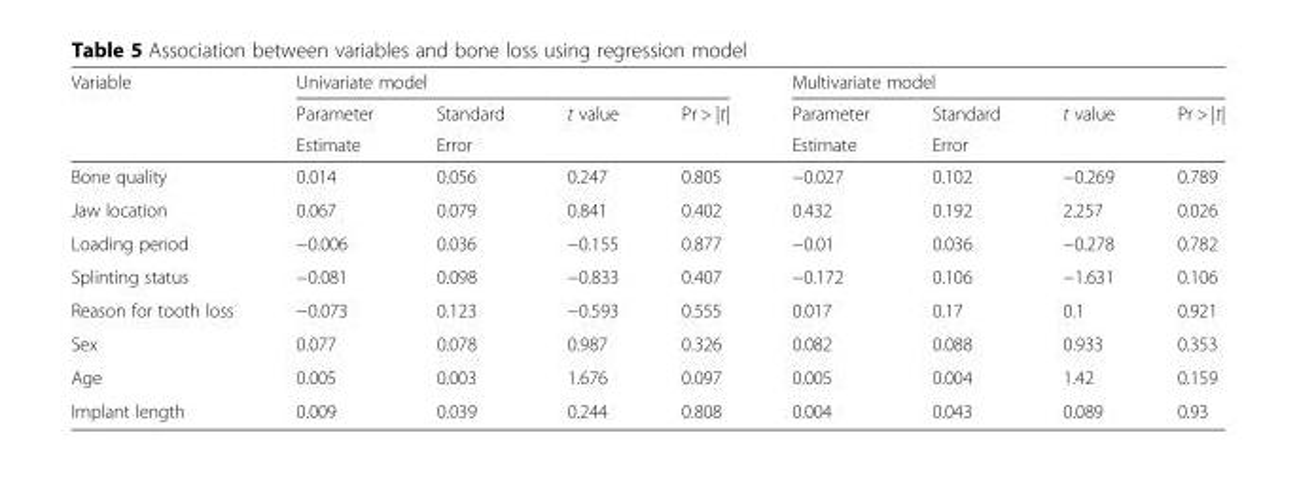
<table><thead><tr><td rowspan="3">Variable</td><td colspan="4">Univariate model</td><td colspan="4">Multivariate model</td></tr><tr><td rowspan="2">Parameter Estimate</td><td rowspan="2">Standard Error</td><td rowspan="2">t value</td><td rowspan="2">Pr &gt; |t|</td><td rowspan="2">Parameter Estimate</td><td rowspan="2">Standard Error</td><td rowspan="2">t value</td><td rowspan="2">Pr &gt; |t|</td></tr><tr></tr></thead><tbody><tr><td>Bone quality</td><td>0.014</td><td>0.056</td><td>0.247</td><td>0.805</td><td>−0.027</td><td>0.102</td><td>−0.269</td><td>0.789</td></tr><tr><td>Jaw location</td><td>0.067</td><td>0.079</td><td>0.841</td><td>0.402</td><td>0.432</td><td>0.192</td><td>2.257</td><td>0.026</td></tr><tr><td>Loading period</td><td>−0.006</td><td>0.036</td><td>−0.155</td><td>0.877</td><td>−0.01</td><td>0.036</td><td>−0.278</td><td>0.782</td></tr><tr><td>Splinting status</td><td>−0.081</td><td>0.098</td><td>−0.833</td><td>0.407</td><td>−0.172</td><td>0.106</td><td>−1.631</td><td>0.106</td></tr><tr><td>Reason for tooth loss</td><td>−0.073</td><td>0.123</td><td>−0.593</td><td>0.555</td><td>0.017</td><td>0.17</td><td>0.1</td><td>0.921</td></tr><tr><td>Sex</td><td>0.077</td><td>0.078</td><td>0.987</td><td>0.326</td><td>0.082</td><td>0.088</td><td>0.933</td><td>0.353</td></tr><tr><td>Age</td><td>0.005</td><td>0.003</td><td>1.676</td><td>0.097</td><td>0.005</td><td>0.004</td><td>1.42</td><td>0.159</td></tr><tr><td>Implant length</td><td>0.009</td><td>0.039</td><td>0.244</td><td>0.808</td><td>0.004</td><td>0.043</td><td>0.089</td><td>0.93</td></tr></tbody></table>